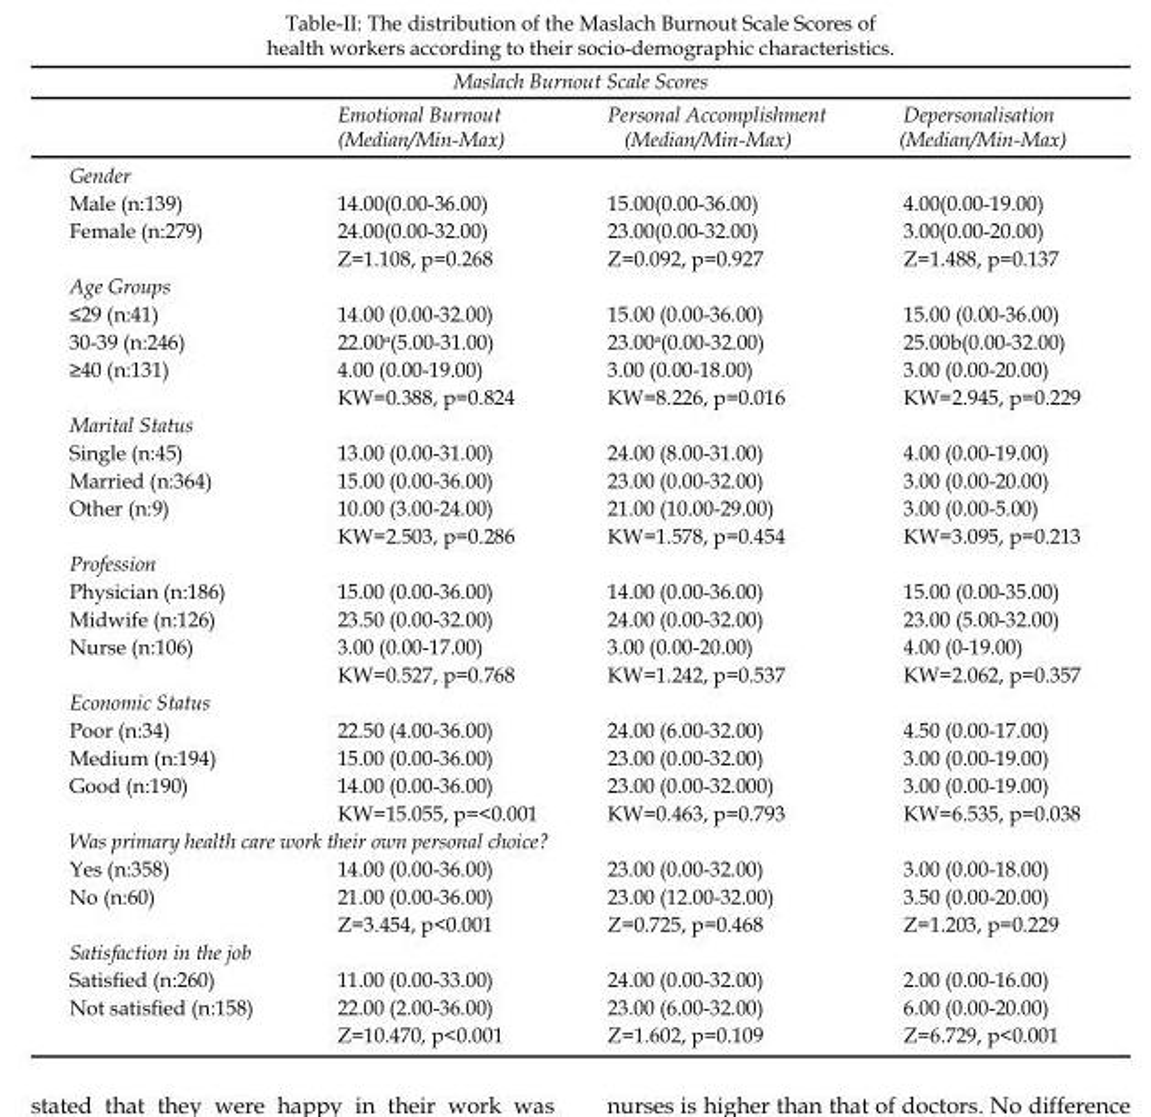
<table><thead><tr><td colspan="4">Maslach Burnout Scale Scores</td></tr><tr><td></td><td>Emotional Burnout (Median/Min-Max)</td><td>Personal Accomplishment (Median/Min-Max)</td><td>Depersonalisation (Median/Min-Max)</td></tr></thead><tbody><tr><td colspan="4">Gender</td></tr><tr><td>Male (n:139)</td><td>14.00(0.00-36.00)</td><td>15.00(0.00-36.00)</td><td>4.00(0.00-19.00)</td></tr><tr><td rowspan="2">Female (n:279)</td><td>24.00(0.00-32.00)</td><td>23.00(0.00-32.00)</td><td>3.00(0.00-20.00)</td></tr><tr><td>Z=1.108, p=0.268</td><td>Z=0.092, p=0.927</td><td>Z=1.488, p=0.137</td></tr><tr><td colspan="4">Age Groups</td></tr><tr><td>≤29 (n:41)</td><td>14.00 (0.00-32.00)</td><td>15.00 (0.00-36.00)</td><td>15.00 (0.00-36.00)</td></tr><tr><td>30-39 (n:246)</td><td>22.00<sup>a</sup>(5.00-31.00)</td><td>23.00<sup>a</sup>(0.00-32.00)</td><td>25.00<sup>b</sup>(0.00-32.00)</td></tr><tr><td rowspan="2">≥40 (n:131)</td><td>4.00 (0.00-19.00)</td><td>3.00 (0.00-18.00)</td><td>3.00 (0.00-20.00)</td></tr><tr><td>KW=0.388, p=0.824</td><td>KW=8.226, p=0.016</td><td>KW=2.945, p=0.229</td></tr><tr><td colspan="4">Marital Status</td></tr><tr><td>Single (n:45)</td><td>13.00 (0.00-31.00)</td><td>24.00 (8.00-31.00)</td><td>4.00 (0.00-19.00)</td></tr><tr><td>Married (n:364)</td><td>15.00 (0.00-36.00)</td><td>23.00 (0.00-32.00)</td><td>3.00 (0.00-20.00)</td></tr><tr><td rowspan="2">Other (n:9)</td><td>10.00 (3.00-24.00)</td><td>21.00 (10.00-29.00)</td><td>3.00 (0.00-5.00)</td></tr><tr><td>KW=2.503, p=0.286</td><td>KW=1.578, p=0.454</td><td>KW=3.095, p=0.213</td></tr><tr><td colspan="4">Profession</td></tr><tr><td>Physician (n:186)</td><td>15.00 (0.00-36.00)</td><td>14.00 (0.00-36.00)</td><td>15.00 (0.00-35.00)</td></tr><tr><td>Midwife (n:126)</td><td>23.50 (0.00-32.00)</td><td>24.00 (0.00-32.00)</td><td>23.00 (5.00-32.00)</td></tr><tr><td rowspan="2">Nurse (n:106)</td><td>3.00 (0.00-17.00)</td><td>3.00 (0.00-20.00)</td><td>4.00 (0-19.00)</td></tr><tr><td>KW=0.527, p=0.768</td><td>KW=1.242, p=0.537</td><td>KW=2.062, p=0.357</td></tr><tr><td colspan="4">Economic Status</td></tr><tr><td>Poor (n:34)</td><td>22.50 (4.00-36.00)</td><td>24.00 (6.00-32.00)</td><td>4.50 (0.00-17.00)</td></tr><tr><td>Medium (n:194)</td><td>15.00 (0.00-36.00)</td><td>23.00 (0.00-32.00)</td><td>3.00 (0.00-19.00)</td></tr><tr><td rowspan="2">Good (n:190)</td><td>14.00 (0.00-36.00)</td><td>23.00 (0.00-32.000)</td><td>3.00 (0.00-19.00)</td></tr><tr><td>KW=15.055, p=&lt;0.001</td><td>KW=0.463, p=0.793</td><td>KW=6.535, p=0.038</td></tr><tr><td colspan="4">Was primary health care work their own personal choice?</td></tr><tr><td>Yes (n:358)</td><td>14.00 (0.00-36.00)</td><td>23.00 (0.00-32.00)</td><td>3.00 (0.00-18.00)</td></tr><tr><td rowspan="2">No (n:60)</td><td>21.00 (0.00-36.00)</td><td>23.00 (12.00-32.00)</td><td>3.50 (0.00-20.00)</td></tr><tr><td>Z=3.454, p&lt;0.001</td><td>Z=0.725, p=0.468</td><td>Z=1.203, p=0.229</td></tr><tr><td colspan="4">Satisfaction in the job</td></tr><tr><td>Satisfied (n:260)</td><td>11.00 (0.00-33.00)</td><td>24.00 (0.00-32.00)</td><td>2.00 (0.00-16.00)</td></tr><tr><td rowspan="2">Not satisfied (n:158)</td><td>22.00 (2.00-36.00)</td><td>23.00 (6.00-32.00)</td><td>6.00 (0.00-20.00)</td></tr><tr><td>Z=10.470, p&lt;0.001</td><td>Z=1.602, p=0.109</td><td>Z=6.729, p&lt;0.001</td></tr></tbody></table>